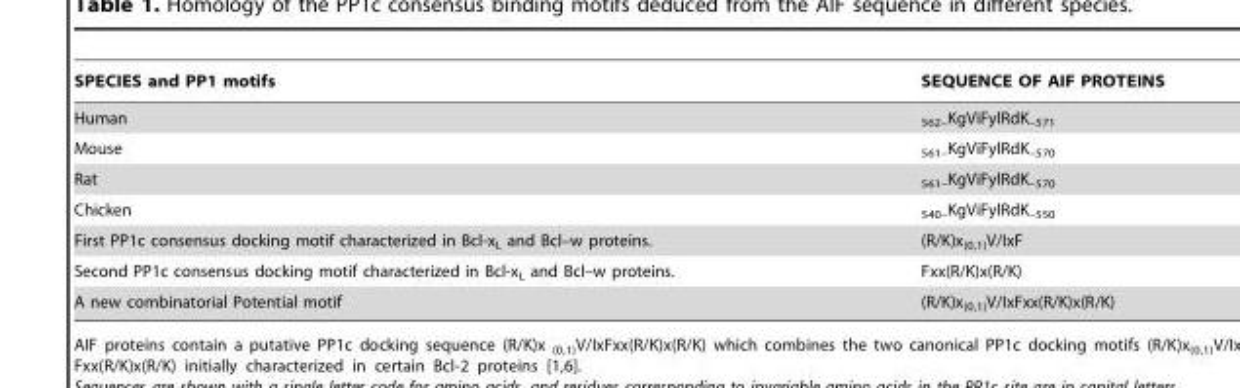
<table><thead><tr><td>SPECIES and PP1 motifs</td><td>SEQUENCE OF AIF PROTEINS</td></tr></thead><tbody><tr><td>Human</td><td><sub>562–</sub>KgViFylRdK<sub>–571</sub></td></tr><tr><td>Mouse</td><td><sub>561–</sub>KgViFylRdK<sub>–570</sub></td></tr><tr><td>Rat</td><td><sub>561–</sub>KgViFylRdK<sub>–570</sub></td></tr><tr><td>Chicken</td><td><sub>540–</sub>KgViFylRdK<sub>–550</sub></td></tr><tr><td>First PP1c consensus docking motif characterized in Bcl-x<sub>L</sub> and Bcl–w proteins.</td><td>(R/K)x<sub>(0,1)</sub>V/IxF</td></tr><tr><td>Second PP1c consensus docking motif characterized in Bcl-x<sub>L</sub> and Bcl–w proteins.</td><td>Fxx(R/K)x(R/K)</td></tr><tr><td>A new combinatorial Potential motif</td><td>(R/K)x<sub>(0,1)</sub>V/IxFxx(R/K)x(R/K)</td></tr></tbody></table>